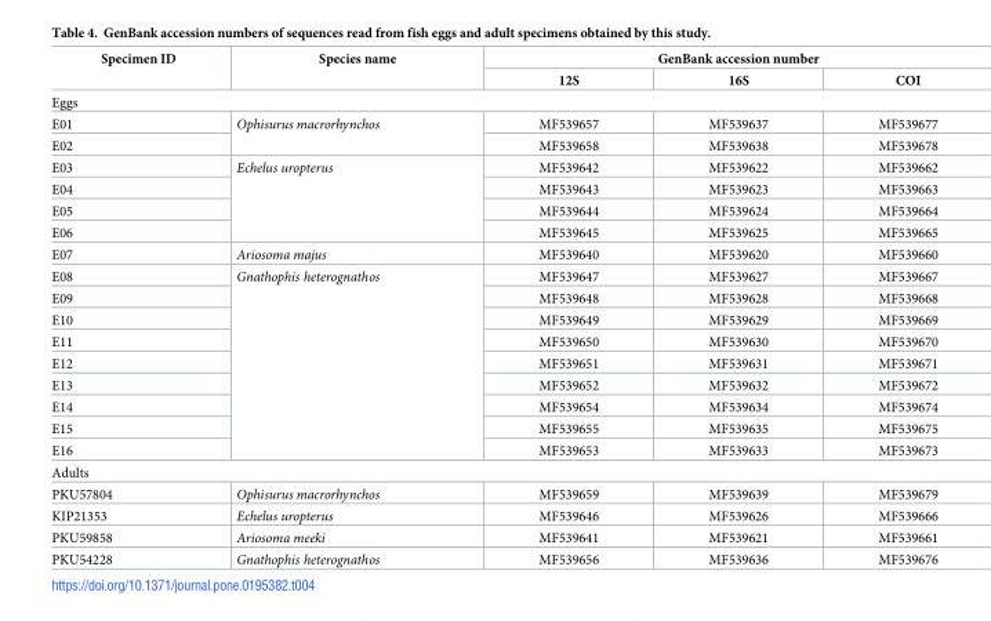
<table><thead><tr><td rowspan="2">Specimen ID</td><td rowspan="2">Species name</td><td colspan="3">GenBank accession number</td></tr><tr><td>12S</td><td>16S</td><td>COI</td></tr></thead><tbody><tr><td colspan="5">Eggs</td></tr><tr><td>E01</td><td rowspan="2">Ophisurus macrorhynchos</td><td>MF539657</td><td>MF539637</td><td>MF539677</td></tr><tr><td>E02</td><td>MF539658</td><td>MF539638</td><td>MF539678</td></tr><tr><td>E03</td><td rowspan="4">Echelus uropterus</td><td>MF539642</td><td>MF539622</td><td>MF539662</td></tr><tr><td>E04</td><td>MF539643</td><td>MF539623</td><td>MF539663</td></tr><tr><td>E05</td><td>MF539644</td><td>MF539624</td><td>MF539664</td></tr><tr><td>E06</td><td>MF539645</td><td>MF539625</td><td>MF539665</td></tr><tr><td>E07</td><td>Ariosoma majus</td><td>MF539640</td><td>MF539620</td><td>MF539660</td></tr><tr><td>E08</td><td rowspan="9">Gnathophis heterognathos</td><td>MF539647</td><td>MF539627</td><td>MF539667</td></tr><tr><td>E09</td><td>MF539648</td><td>MF539628</td><td>MF539668</td></tr><tr><td>E10</td><td>MF539649</td><td>MF539629</td><td>MF539669</td></tr><tr><td>E11</td><td>MF539650</td><td>MF539630</td><td>MF539670</td></tr><tr><td>E12</td><td>MF539651</td><td>MF539631</td><td>MF539671</td></tr><tr><td>E13</td><td>MF539652</td><td>MF539632</td><td>MF539672</td></tr><tr><td>E14</td><td>MF539654</td><td>MF539634</td><td>MF539674</td></tr><tr><td>E15</td><td>MF539655</td><td>MF539635</td><td>MF539675</td></tr><tr><td>E16</td><td>MF539653</td><td>MF539633</td><td>MF539673</td></tr><tr><td colspan="5">Adults</td></tr><tr><td>PKU57804</td><td>Ophisurus macrorhynchos</td><td>MF539659</td><td>MF539639</td><td>MF539679</td></tr><tr><td>KIP21353</td><td>Echelus uropterus</td><td>MF539646</td><td>MF539626</td><td>MF539666</td></tr><tr><td>PKU59858</td><td>Ariosoma meeki</td><td>MF539641</td><td>MF539621</td><td>MF539661</td></tr><tr><td>PKU54228</td><td>Gnathophis heterognathos</td><td>MF539656</td><td>MF539636</td><td>MF539676</td></tr></tbody></table>